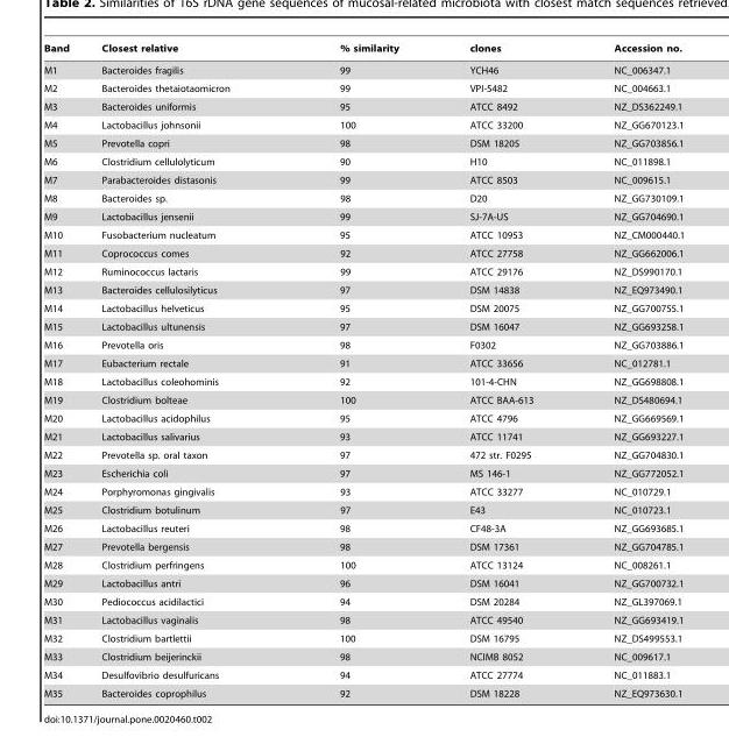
<table><thead><tr><td>Band</td><td>Closest relative</td><td>% similarity</td><td>clones</td><td>Accession no.</td></tr></thead><tbody><tr><td>M1</td><td>Bacteroides fragilis</td><td>99</td><td>YCH46</td><td>NC_006347.1</td></tr><tr><td>M2</td><td>Bacteroides thetaiotaomicron</td><td>99</td><td>VPI-5482</td><td>NC_004663.1</td></tr><tr><td>M3</td><td>Bacteroides uniformis</td><td>95</td><td>ATCC 8492</td><td>NZ_DS362249.1</td></tr><tr><td>M4</td><td>Lactobacillus johnsonii</td><td>100</td><td>ATCC 33200</td><td>NZ_GG670123.1</td></tr><tr><td>M5</td><td>Prevotella copri</td><td>98</td><td>DSM 18205</td><td>NZ_GG703856.1</td></tr><tr><td>M6</td><td>Clostridium cellulolyticum</td><td>90</td><td>H10</td><td>NC_011898.1</td></tr><tr><td>M7</td><td>Parabacteroides distasonis</td><td>99</td><td>ATCC 8503</td><td>NC_009615.1</td></tr><tr><td>M8</td><td>Bacteroides sp.</td><td>98</td><td>D20</td><td>NZ_GG730109.1</td></tr><tr><td>M9</td><td>Lactobacillus jensenii</td><td>99</td><td>SJ-7A-US</td><td>NZ_GG704690.1</td></tr><tr><td>M10</td><td>Fusobacterium nucleatum</td><td>95</td><td>ATCC 10953</td><td>NZ_CM000440.1</td></tr><tr><td>M11</td><td>Coprococcus comes</td><td>92</td><td>ATCC 27758</td><td>NZ_GG662006.1</td></tr><tr><td>M12</td><td>Ruminococcus lactaris</td><td>99</td><td>ATCC 29176</td><td>NZ_DS990170.1</td></tr><tr><td>M13</td><td>Bacteroides cellulosilyticus</td><td>97</td><td>DSM 14838</td><td>NZ_EQ973490.1</td></tr><tr><td>M14</td><td>Lactobacillus helveticus</td><td>95</td><td>DSM 20075</td><td>NZ_GG700755.1</td></tr><tr><td>M15</td><td>Lactobacillus ultunensis</td><td>97</td><td>DSM 16047</td><td>NZ_GG693258.1</td></tr><tr><td>M16</td><td>Prevotella oris</td><td>98</td><td>F0302</td><td>NZ_GG703886.1</td></tr><tr><td>M17</td><td>Eubacterium rectale</td><td>91</td><td>ATCC 33656</td><td>NC_012781.1</td></tr><tr><td>M18</td><td>Lactobacillus coleohominis</td><td>92</td><td>101-4-CHN</td><td>NZ_GG698808.1</td></tr><tr><td>M19</td><td>Clostridium bolteae</td><td>100</td><td>ATCC BAA-613</td><td>NZ_DS480694.1</td></tr><tr><td>M20</td><td>Lactobacillus acidophilus</td><td>95</td><td>ATCC 4796</td><td>NZ_GG669569.1</td></tr><tr><td>M21</td><td>Lactobacillus salivarius</td><td>93</td><td>ATCC 11741</td><td>NZ_GG693227.1</td></tr><tr><td>M22</td><td>Prevotella sp. oral taxon</td><td>97</td><td>472 str. F0295</td><td>NZ_GG704830.1</td></tr><tr><td>M23</td><td>Escherichia coli</td><td>97</td><td>MS 146-1</td><td>NZ_GG772052.1</td></tr><tr><td>M24</td><td>Porphyromonas gingivalis</td><td>93</td><td>ATCC 33277</td><td>NC_010729.1</td></tr><tr><td>M25</td><td>Clostridium botulinum</td><td>97</td><td>E43</td><td>NC_010723.1</td></tr><tr><td>M26</td><td>Lactobacillus reuteri</td><td>98</td><td>CF48-3A</td><td>NZ_GG693685.1</td></tr><tr><td>M27</td><td>Prevotella bergensis</td><td>98</td><td>DSM 17361</td><td>NZ_GG704785.1</td></tr><tr><td>M28</td><td>Clostridium perfringens</td><td>100</td><td>ATCC 13124</td><td>NC_008261.1</td></tr><tr><td>M29</td><td>Lactobacillus antri</td><td>96</td><td>DSM 16041</td><td>NZ_GG700732.1</td></tr><tr><td>M30</td><td>Pediococcus acidilactici</td><td>94</td><td>DSM 20284</td><td>NZ_GL397069.1</td></tr><tr><td>M31</td><td>Lactobacillus vaginalis</td><td>98</td><td>ATCC 49540</td><td>NZ_GG693419.1</td></tr><tr><td>M32</td><td>Clostridium bartlettii</td><td>100</td><td>DSM 16795</td><td>NZ_DS499553.1</td></tr><tr><td>M33</td><td>Clostridium beijerinckii</td><td>98</td><td>NCIMB 8052</td><td>NC_009617.1</td></tr><tr><td>M34</td><td>Desulfovibrio desulfuricans</td><td>94</td><td>ATCC 27774</td><td>NC_011883.1</td></tr><tr><td>M35</td><td>Bacteroides coprophilus</td><td>92</td><td>DSM 18228</td><td>NZ_EQ973630.1</td></tr></tbody></table>